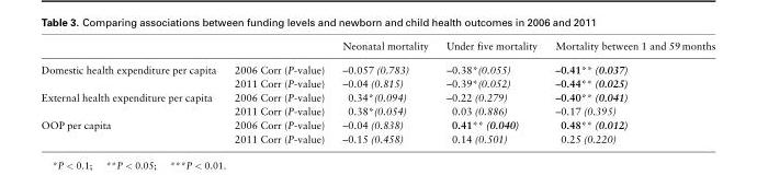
<table><thead><tr><td></td><td></td><td>Neonatal mortality</td><td>Under five mortality</td><td>Mortality between 1 and 59 months</td></tr></thead><tbody><tr><td rowspan="2">Domestic health expenditure per capita</td><td>2006 Corr (P-value)</td><td>–0.057 (0.783)</td><td>–0.38*(0.055)</td><td>–0.41** (0.037)</td></tr><tr><td>2011 Corr (P-value)</td><td>–0.04 (0.815)</td><td>–0.39*(0.052)</td><td>–0.44** (0.025)</td></tr><tr><td rowspan="2">External health expenditure per capita</td><td>2006 Corr (P-value)</td><td>0.34*(0.094)</td><td>–0.22 (0.279)</td><td>–0.40** (0.041)</td></tr><tr><td>2011 Corr (P-value)</td><td>0.38*(0.054)</td><td>0.03 (0.886)</td><td>–0.17 (0.395)</td></tr><tr><td rowspan="2">OOP per capita</td><td>2006 Corr (P-value)</td><td>–0.04 (0.838)</td><td>0.41** (0.040)</td><td>0.48** (0.012)</td></tr><tr><td>2011 Corr (P-value)</td><td>–0.15 (0.458)</td><td>0.14 (0.501)</td><td>0.25 (0.220)</td></tr></tbody></table>